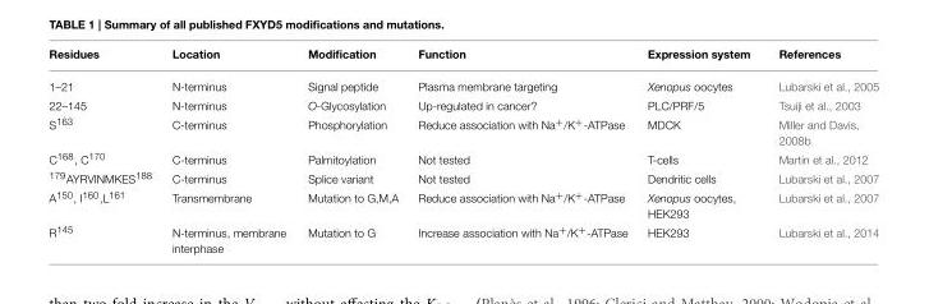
<table><thead><tr><td>Residues</td><td>Location</td><td>Modification</td><td>Function</td><td>Expression system</td><td>References</td></tr></thead><tbody><tr><td>1–21</td><td>N-terminus</td><td>Signal peptide</td><td>Plasma membrane targeting</td><td>Xenopus oocytes</td><td>Lubarski et al., 2005</td></tr><tr><td>22–145</td><td>N-terminus</td><td>O-Glycosylation</td><td>Up-regulated in cancer?</td><td>PLC/PRF/5</td><td>Tsuiji et al., 2003</td></tr><tr><td>S<sup>163</sup></td><td>C-terminus</td><td>Phosphorylation</td><td>Reduce association with Na<sup>+</sup>/K<sup>+</sup>-ATPase</td><td>MDCK</td><td>Miller and Davis, 2008b</td></tr><tr><td>C<sup>168</sup>, C<sup>170</sup></td><td>C-terminus</td><td>Palmitoylation</td><td>Not tested</td><td>T-cells</td><td>Martin et al., 2012</td></tr><tr><td><sup>179</sup>AYRVINMKES<sup>188</sup></td><td>C-terminus</td><td>Splice variant</td><td>Not tested</td><td>Dendritic cells</td><td>Lubarski et al., 2007</td></tr><tr><td>A<sup>150</sup>, I<sup>160</sup>,L<sup>161</sup></td><td>Transmembrane</td><td>Mutation to G,M,A</td><td>Reduce association with Na<sup>+</sup>/K<sup>+</sup>-ATPase</td><td>Xenopus oocytes, HEK293</td><td>Lubarski et al., 2007</td></tr><tr><td>R<sup>145</sup></td><td>N-terminus, membrane interphase</td><td>Mutation to G</td><td>Increase association with Na<sup>+</sup>/K<sup>+</sup>-ATPase</td><td>HEK293</td><td>Lubarski et al., 2014</td></tr></tbody></table>